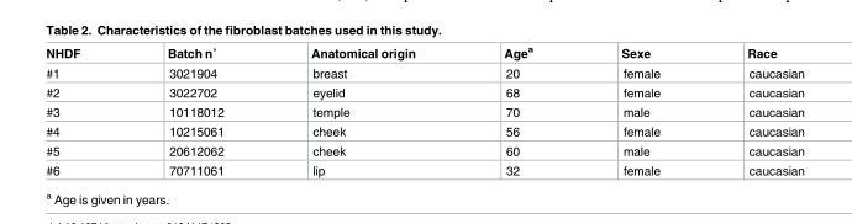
<table><thead><tr><td>NHDF</td><td>Batch n˚</td><td>Anatomical origin</td><td>Age<sup>a</sup></td><td>Sexe</td><td>Race</td></tr></thead><tbody><tr><td>#1</td><td>3021904</td><td>breast</td><td>20</td><td>female</td><td>caucasian</td></tr><tr><td>#2</td><td>3022702</td><td>eyelid</td><td>68</td><td>female</td><td>caucasian</td></tr><tr><td>#3</td><td>10118012</td><td>temple</td><td>70</td><td>male</td><td>caucasian</td></tr><tr><td>#4</td><td>10215061</td><td>cheek</td><td>56</td><td>female</td><td>caucasian</td></tr><tr><td>#5</td><td>20612062</td><td>cheek</td><td>60</td><td>male</td><td>caucasian</td></tr><tr><td>#6</td><td>70711061</td><td>lip</td><td>32</td><td>female</td><td>caucasian</td></tr></tbody></table>